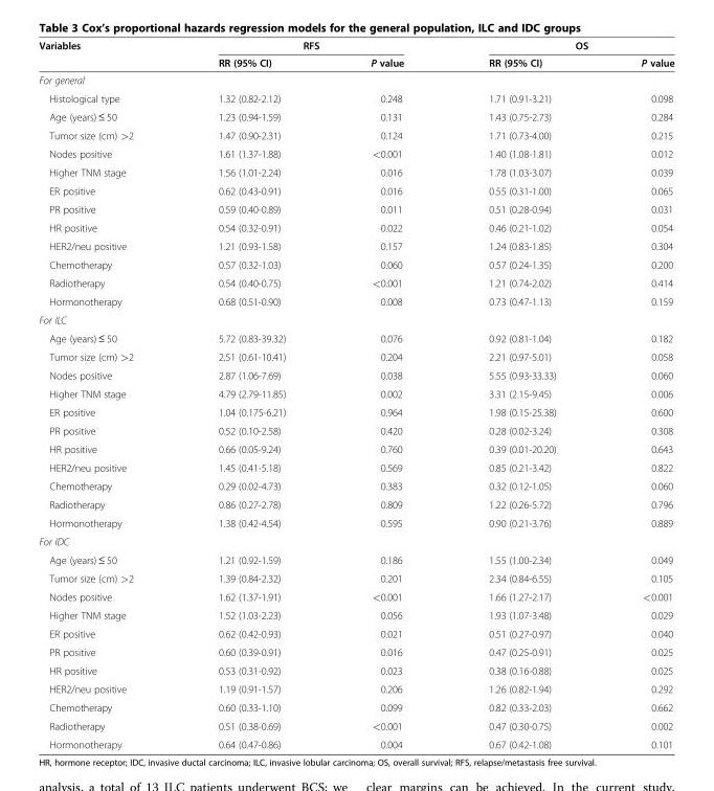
<table><thead><tr><td rowspan="2">Variables</td><td colspan="2">RFS</td><td colspan="2">OS</td></tr><tr><td>RR (95% CI)</td><td>P value</td><td>RR (95% CI)</td><td>P value</td></tr></thead><tbody><tr><td colspan="5">For general</td></tr><tr><td>Histological type</td><td>1.32 (0.82-2.12)</td><td>0.248</td><td>1.71 (0.91-3.21)</td><td>0.098</td></tr><tr><td>Age (years) ≤ 50</td><td>1.23 (0.94-1.59)</td><td>0.131</td><td>1.43 (0.75-2.73)</td><td>0.284</td></tr><tr><td>Tumor size (cm) &gt;2</td><td>1.47 (0.90-2.31)</td><td>0.124</td><td>1.71 (0.73-4.00)</td><td>0.215</td></tr><tr><td>Nodes positive</td><td>1.61 (1.37-1.88)</td><td>&lt;0.001</td><td>1.40 (1.08-1.81)</td><td>0.012</td></tr><tr><td>Higher TNM stage</td><td>1.56 (1.01-2.24)</td><td>0.016</td><td>1.78 (1.03-3.07)</td><td>0.039</td></tr><tr><td>ER positive</td><td>0.62 (0.43-0.91)</td><td>0.016</td><td>0.55 (0.31-1.00)</td><td>0.065</td></tr><tr><td>PR positive</td><td>0.59 (0.40-0.89)</td><td>0.011</td><td>0.51 (0.28-0.94)</td><td>0.031</td></tr><tr><td>HR positive</td><td>0.54 (0.32-0.91)</td><td>0.022</td><td>0.46 (0.21-1.02)</td><td>0.054</td></tr><tr><td>HER2/neu positive</td><td>1.21 (0.93-1.58)</td><td>0.157</td><td>1.24 (0.83-1.85)</td><td>0.304</td></tr><tr><td>Chemotherapy</td><td>0.57 (0.32-1.03)</td><td>0.060</td><td>0.57 (0.24-1.35)</td><td>0.200</td></tr><tr><td>Radiotherapy</td><td>0.54 (0.40-0.75)</td><td>&lt;0.001</td><td>1.21 (0.74-2.02)</td><td>0.414</td></tr><tr><td>Hormonotherapy</td><td>0.68 (0.51-0.90)</td><td>0.008</td><td>0.73 (0.47-1.13)</td><td>0.159</td></tr><tr><td colspan="5">For ILC</td></tr><tr><td>Age (years) ≤ 50</td><td>5.72 (0.83-39.32)</td><td>0.076</td><td>0.92 (0.81-1.04)</td><td>0.182</td></tr><tr><td>Tumor size (cm) &gt;2</td><td>2.51 (0.61-10.41)</td><td>0.204</td><td>2.21 (0.97-5.01)</td><td>0.058</td></tr><tr><td>Nodes positive</td><td>2.87 (1.06-7.69)</td><td>0.038</td><td>5.55 (0.93-33.33)</td><td>0.060</td></tr><tr><td>Higher TNM stage</td><td>4.79 (2.79-11.85)</td><td>0.002</td><td>3.31 (2.15-9.45)</td><td>0.006</td></tr><tr><td>ER positive</td><td>1.04 (0.175-6.21)</td><td>0.964</td><td>1.98 (0.15-25.38)</td><td>0.600</td></tr><tr><td>PR positive</td><td>0.52 (0.10-2.58)</td><td>0.420</td><td>0.28 (0.02-3.24)</td><td>0.308</td></tr><tr><td>HR positive</td><td>0.66 (0.05-9.24)</td><td>0.760</td><td>0.39 (0.01-20.20)</td><td>0.643</td></tr><tr><td>HER2/neu positive</td><td>1.45 (0.41-5.18)</td><td>0.569</td><td>0.85 (0.21-3.42)</td><td>0.822</td></tr><tr><td>Chemotherapy</td><td>0.29 (0.02-4.73)</td><td>0.383</td><td>0.32 (0.12-1.05)</td><td>0.060</td></tr><tr><td>Radiotherapy</td><td>0.86 (0.27-2.78)</td><td>0.809</td><td>1.22 (0.26-5.72)</td><td>0.796</td></tr><tr><td>Hormonotherapy</td><td>1.38 (0.42-4.54)</td><td>0.595</td><td>0.90 (0.21-3.76)</td><td>0.889</td></tr><tr><td colspan="5">For IDC</td></tr><tr><td>Age (years) ≤ 50</td><td>1.21 (0.92-1.59)</td><td>0.186</td><td>1.55 (1.00-2.34)</td><td>0.049</td></tr><tr><td>Tumor size (cm) &gt;2</td><td>1.39 (0.84-2.32)</td><td>0.201</td><td>2.34 (0.84-6.55)</td><td>0.105</td></tr><tr><td>Nodes positive</td><td>1.62 (1.37-1.91)</td><td>&lt;0.001</td><td>1.66 (1.27-2.17)</td><td>&lt;0.001</td></tr><tr><td>Higher TNM stage</td><td>1.52 (1.03-2.23)</td><td>0.056</td><td>1.93 (1.07-3.48)</td><td>0.029</td></tr><tr><td>ER positive</td><td>0.62 (0.42-0.93)</td><td>0.021</td><td>0.51 (0.27-0.97)</td><td>0.040</td></tr><tr><td>PR positive</td><td>0.60 (0.39-0.91)</td><td>0.016</td><td>0.47 (0.25-0.91)</td><td>0.025</td></tr><tr><td>HR positive</td><td>0.53 (0.31-0.92)</td><td>0.023</td><td>0.38 (0.16-0.88)</td><td>0.025</td></tr><tr><td>HER2/neu positive</td><td>1.19 (0.91-1.57)</td><td>0.206</td><td>1.26 (0.82-1.94)</td><td>0.292</td></tr><tr><td>Chemotherapy</td><td>0.60 (0.33-1.10)</td><td>0.099</td><td>0.82 (0.33-2.03)</td><td>0.662</td></tr><tr><td>Radiotherapy</td><td>0.51 (0.38-0.69)</td><td>&lt;0.001</td><td>0.47 (0.30-0.75)</td><td>0.002</td></tr><tr><td>Hormonotherapy</td><td>0.64 (0.47-0.86)</td><td>0.004</td><td>0.67 (0.42-1.08)</td><td>0.101</td></tr></tbody></table>